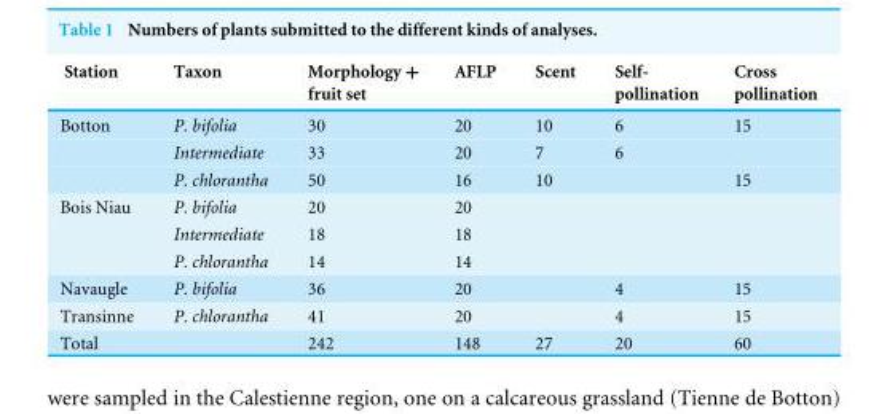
<table><thead><tr><td>Station</td><td>Taxon</td><td>Morphology + fruit set</td><td>AFLP</td><td>Scent</td><td>Self- pollination</td><td>Cross pollination</td></tr></thead><tbody><tr><td rowspan="3">Botton</td><td>P. bifolia</td><td>30</td><td>20</td><td>10</td><td>6</td><td>15</td></tr><tr><td>Intermediate</td><td>33</td><td>20</td><td>7</td><td>6</td><td></td></tr><tr><td>P. chlorantha</td><td>50</td><td>16</td><td>10</td><td></td><td>15</td></tr><tr><td rowspan="3">Bois Niau</td><td>P. bifolia</td><td>20</td><td>20</td><td></td><td></td><td></td></tr><tr><td>Intermediate</td><td>18</td><td>18</td><td></td><td></td><td></td></tr><tr><td>P. chlorantha</td><td>14</td><td>14</td><td></td><td></td><td></td></tr><tr><td>Navaugle</td><td>P. bifolia</td><td>36</td><td>20</td><td></td><td>4</td><td>15</td></tr><tr><td>Transinne</td><td>P. chlorantha</td><td>41</td><td>20</td><td></td><td>4</td><td>15</td></tr><tr><td>Total</td><td></td><td>242</td><td>148</td><td>27</td><td>20</td><td>60</td></tr></tbody></table>